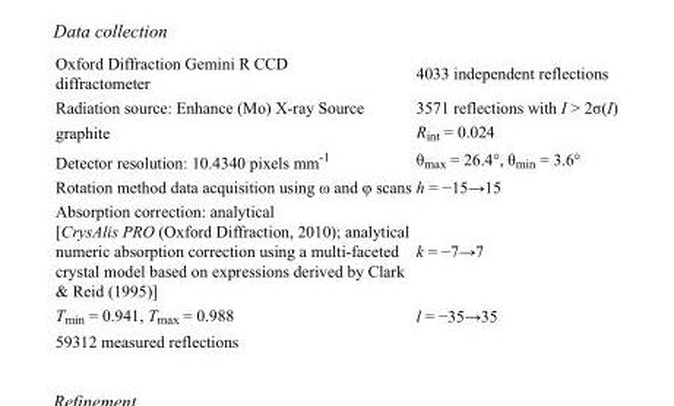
<table><tbody><tr><td>Oxford Diffraction Gemini R CCD diffractometer</td><td>4033 independent reflections</td></tr><tr><td>Radiation source: Enhance (Mo) X-ray Source</td><td>3571 reflections with I &gt; 2σ(I)</td></tr><tr><td>graphite</td><td>R<sub>int</sub> = 0.024</td></tr><tr><td>Detector resolution: 10.4340 pixels mm<sup>-1</sup></td><td>θ<sub>max</sub> = 26.4°, θ<sub>min</sub> = 3.6°</td></tr><tr><td>Rotation method data acquisition using ω and φ scans</td><td>h = −15→15</td></tr><tr><td>Absorption correction: analytical [CrysAlis PRO (Oxford Diffraction, 2010); analytical numeric absorption correction using a multi-faceted crystal model based on expressions derived by Clark &amp; Reid (1995)]</td><td>k = −7→7</td></tr><tr><td>T<sub>min</sub> = 0.941, T<sub>max</sub> = 0.988</td><td>l = −35→35</td></tr><tr><td>59312 measured reflections</td><td></td></tr></tbody></table>